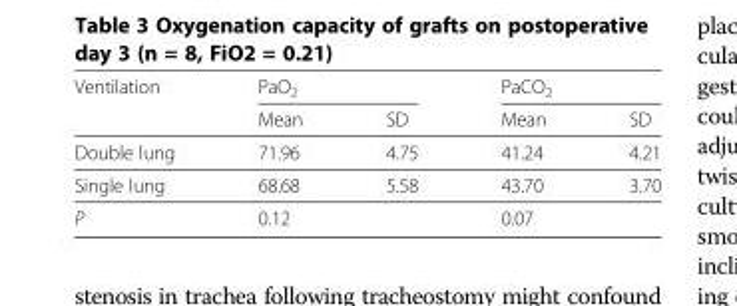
<table><thead><tr><td rowspan="2">Ventilation</td><td colspan="2">PaO<sub>2</sub></td><td colspan="2">PaCO<sub>2</sub></td></tr><tr><td>Mean</td><td>SD</td><td>Mean</td><td>SD</td></tr></thead><tbody><tr><td>Double lung</td><td>71.96</td><td>4.75</td><td>41.24</td><td>4.21</td></tr><tr><td>Single lung</td><td>68.68</td><td>5.58</td><td>43.70</td><td>3.70</td></tr><tr><td>P</td><td>0.12</td><td></td><td>0.07</td><td></td></tr></tbody></table>